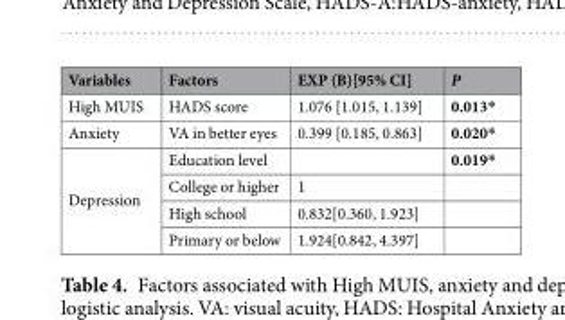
<table><thead><tr><td>Variables</td><td>Factors</td><td>EXP (B)[95% CI]</td><td>P</td></tr></thead><tbody><tr><td>High MUIS</td><td>HADS score</td><td>1.076 [1.015, 1.139]</td><td>0.013*</td></tr><tr><td>Anxiety</td><td>VA in better eyes</td><td>0.399 [0.185, 0.863]</td><td>0.020*</td></tr><tr><td rowspan="4">Depression</td><td>Education level</td><td></td><td>0.019*</td></tr><tr><td>College or higher</td><td>1</td><td></td></tr><tr><td>High school</td><td>0.832[0.360, 1.923]</td><td></td></tr><tr><td>Primary or below</td><td>1.924[0.842, 4.397]</td><td></td></tr></tbody></table>